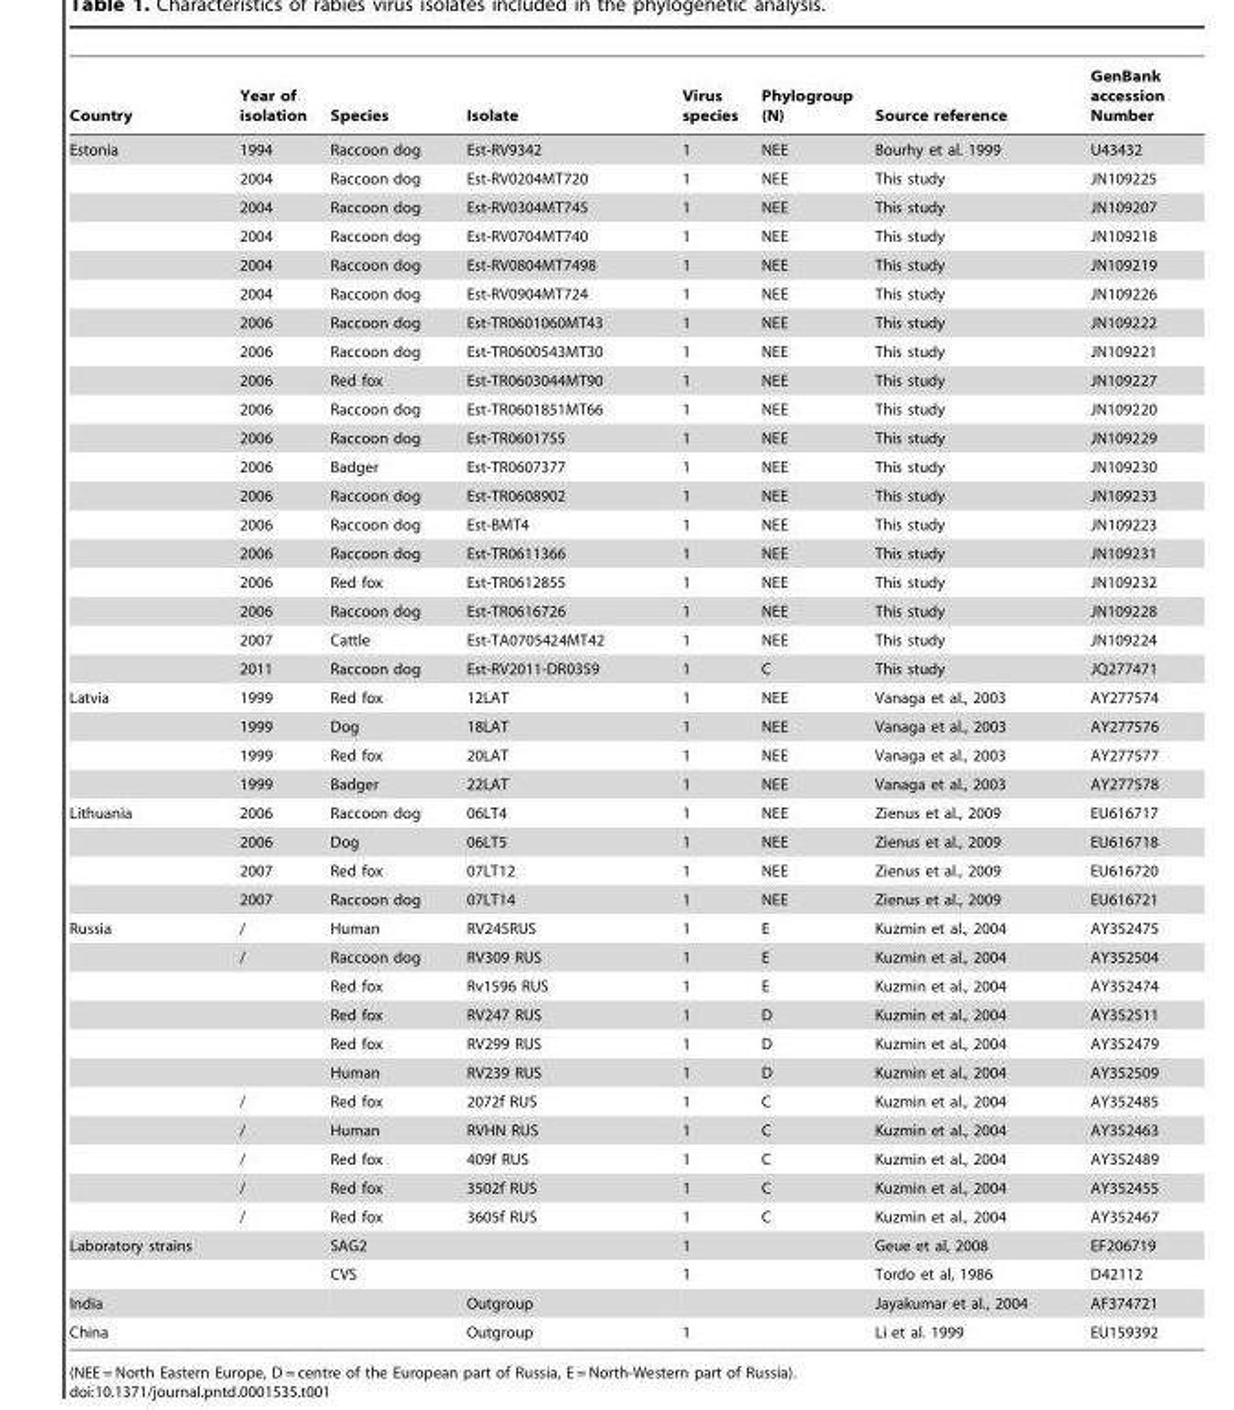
<table><thead><tr><td>Country</td><td>Year of isolation</td><td>Species</td><td>Isolate</td><td>Virus species</td><td>Phylogroup (N)</td><td>Source reference</td><td>GenBank accession Number</td></tr></thead><tbody><tr><td rowspan="19">Estonia</td><td>1994</td><td>Raccoon dog</td><td>Est-RV9342</td><td>1</td><td>NEE</td><td>Bourhy et al. 1999</td><td>U43432</td></tr><tr><td>2004</td><td>Raccoon dog</td><td>Est-RV0204MT720</td><td>1</td><td>NEE</td><td>This study</td><td>JN109225</td></tr><tr><td>2004</td><td>Raccoon dog</td><td>Est-RV0304MT745</td><td>1</td><td>NEE</td><td>This study</td><td>JN109207</td></tr><tr><td>2004</td><td>Raccoon dog</td><td>Est-RV0704MT740</td><td>1</td><td>NEE</td><td>This study</td><td>JN109218</td></tr><tr><td>2004</td><td>Raccoon dog</td><td>Est-RV0804MT7498</td><td>1</td><td>NEE</td><td>This study</td><td>JN109219</td></tr><tr><td>2004</td><td>Raccoon dog</td><td>Est-RV0904MT724</td><td>1</td><td>NEE</td><td>This study</td><td>JN109226</td></tr><tr><td>2006</td><td>Raccoon dog</td><td>Est-TR0601060MT43</td><td>1</td><td>NEE</td><td>This study</td><td>JN109222</td></tr><tr><td>2006</td><td>Raccoon dog</td><td>Est-TR0600543MT30</td><td>1</td><td>NEE</td><td>This study</td><td>JN109221</td></tr><tr><td>2006</td><td>Red fox</td><td>Est-TR0603044MT90</td><td>1</td><td>NEE</td><td>This study</td><td>JN109227</td></tr><tr><td>2006</td><td>Raccoon dog</td><td>Est-TR0601851MT66</td><td>1</td><td>NEE</td><td>This study</td><td>JN109220</td></tr><tr><td>2006</td><td>Raccoon dog</td><td>Est-TR0601755</td><td>1</td><td>NEE</td><td>This study</td><td>JN109229</td></tr><tr><td>2006</td><td>Badger</td><td>Est-TR0607377</td><td>1</td><td>NEE</td><td>This study</td><td>JN109230</td></tr><tr><td>2006</td><td>Raccoon dog</td><td>Est-TR0608902</td><td>1</td><td>NEE</td><td>This study</td><td>JN109233</td></tr><tr><td>2006</td><td>Raccoon dog</td><td>Est-BMT4</td><td>1</td><td>NEE</td><td>This study</td><td>JN109223</td></tr><tr><td>2006</td><td>Raccoon dog</td><td>Est-TR0611366</td><td>1</td><td>NEE</td><td>This study</td><td>JN109231</td></tr><tr><td>2006</td><td>Red fox</td><td>Est-TR0612855</td><td>1</td><td>NEE</td><td>This study</td><td>JN109232</td></tr><tr><td>2006</td><td>Raccoon dog</td><td>Est-TR0616726</td><td>1</td><td>NEE</td><td>This study</td><td>JN109228</td></tr><tr><td>2007</td><td>Cattle</td><td>Est-TA0705424MT42</td><td>1</td><td>NEE</td><td>This study</td><td>JN109224</td></tr><tr><td>2011</td><td>Raccoon dog</td><td>Est-RV2011-DR0359</td><td>1</td><td>C</td><td>This study</td><td>JQ277471</td></tr><tr><td rowspan="4">Latvia</td><td>1999</td><td>Red fox</td><td>12LAT</td><td>1</td><td>NEE</td><td>Vanaga et al., 2003</td><td>AY277574</td></tr><tr><td>1999</td><td>Dog</td><td>18LAT</td><td>1</td><td>NEE</td><td>Vanaga et al., 2003</td><td>AY277576</td></tr><tr><td>1999</td><td>Red fox</td><td>20LAT</td><td>1</td><td>NEE</td><td>Vanaga et al., 2003</td><td>AY277577</td></tr><tr><td>1999</td><td>Badger</td><td>22LAT</td><td>1</td><td>NEE</td><td>Vanaga et al., 2003</td><td>AY277578</td></tr><tr><td rowspan="4">Lithuania</td><td>2006</td><td>Raccoon dog</td><td>06LT4</td><td>1</td><td>NEE</td><td>Zienus et al., 2009</td><td>EU616717</td></tr><tr><td>2006</td><td>Dog</td><td>06LT5</td><td>1</td><td>NEE</td><td>Zienus et al., 2009</td><td>EU616718</td></tr><tr><td>2007</td><td>Red fox</td><td>07LT12</td><td>1</td><td>NEE</td><td>Zienus et al., 2009</td><td>EU616720</td></tr><tr><td>2007</td><td>Raccoon dog</td><td>07LT14</td><td>1</td><td>NEE</td><td>Zienus et al., 2009</td><td>EU616721</td></tr><tr><td rowspan="11">Russia</td><td>/</td><td>Human</td><td>RV245RUS</td><td>1</td><td>E</td><td>Kuzmin et al., 2004</td><td>AY352475</td></tr><tr><td>/</td><td>Raccoon dog</td><td>RV309 RUS</td><td>1</td><td>E</td><td>Kuzmin et al., 2004</td><td>AY352504</td></tr><tr><td></td><td>Red fox</td><td>Rv1596 RUS</td><td>1</td><td>E</td><td>Kuzmin et al., 2004</td><td>AY352474</td></tr><tr><td></td><td>Red fox</td><td>RV247 RUS</td><td>1</td><td>D</td><td>Kuzmin et al., 2004</td><td>AY352511</td></tr><tr><td></td><td>Red fox</td><td>RV299 RUS</td><td>1</td><td>D</td><td>Kuzmin et al., 2004</td><td>AY352479</td></tr><tr><td></td><td>Human</td><td>RV239 RUS</td><td>1</td><td>D</td><td>Kuzmin et al., 2004</td><td>AY352509</td></tr><tr><td>/</td><td>Red fox</td><td>2072f RUS</td><td>1</td><td>C</td><td>Kuzmin et al., 2004</td><td>AY352485</td></tr><tr><td>/</td><td>Human</td><td>RVHN RUS</td><td>1</td><td>C</td><td>Kuzmin et al., 2004</td><td>AY352463</td></tr><tr><td>/</td><td>Red fox</td><td>409f RUS</td><td>1</td><td>C</td><td>Kuzmin et al., 2004</td><td>AY352489</td></tr><tr><td>/</td><td>Red fox</td><td>3502f RUS</td><td>1</td><td>C</td><td>Kuzmin et al., 2004</td><td>AY352455</td></tr><tr><td>/</td><td>Red fox</td><td>3605f RUS</td><td>1</td><td>C</td><td>Kuzmin et al., 2004</td><td>AY352467</td></tr><tr><td rowspan="2">Laboratory strains</td><td></td><td>SAG2</td><td></td><td>1</td><td></td><td>Geue et al, 2008</td><td>EF206719</td></tr><tr><td></td><td>CVS</td><td></td><td>1</td><td></td><td>Tordo et al, 1986</td><td>D42112</td></tr><tr><td>India</td><td></td><td></td><td>Outgroup</td><td></td><td></td><td>Jayakumar et al., 2004</td><td>AF374721</td></tr><tr><td>China</td><td></td><td></td><td>Outgroup</td><td>1</td><td></td><td>Li et al. 1999</td><td>EU159392</td></tr></tbody></table>